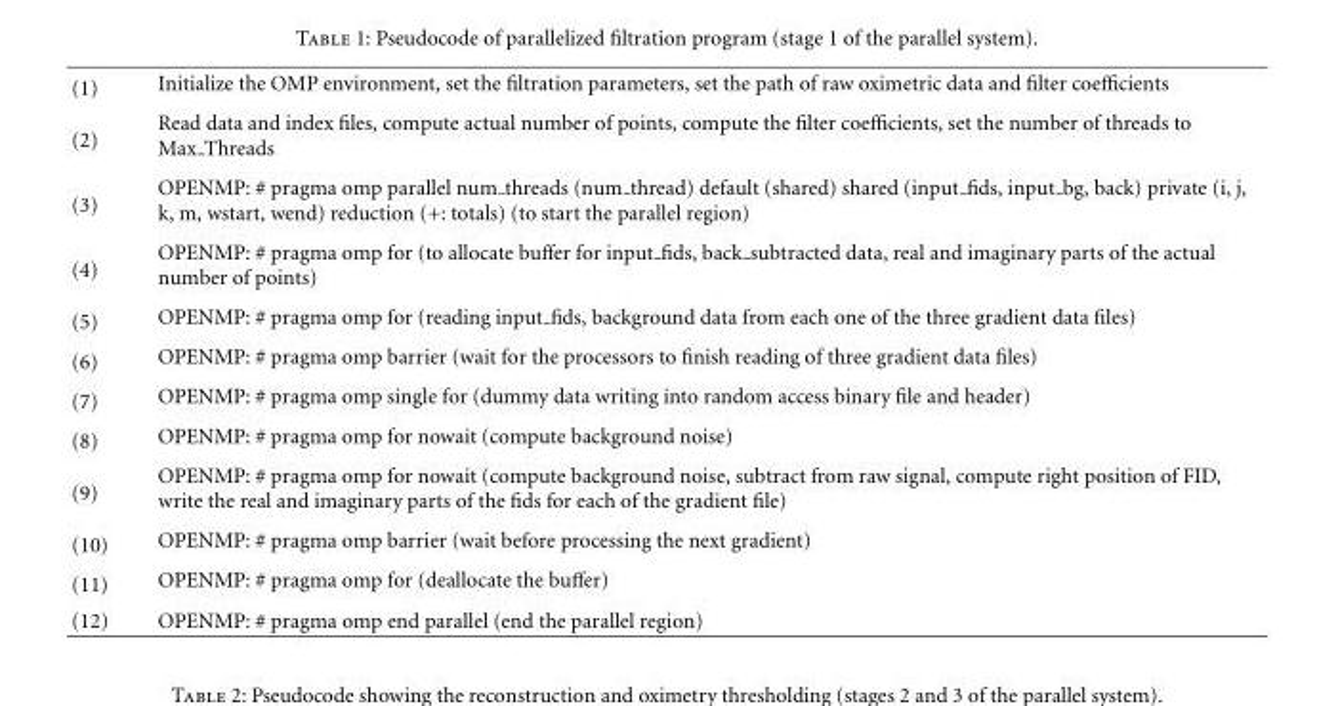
<table><tbody><tr><td>(1)</td><td>Initialize the OMP environment, set the filtration parameters, set the path of raw oximetric data and filter coefficients</td></tr><tr><td>(2)</td><td>Read data and index files, compute actual number of points, compute the filter coefficients, set the number of threads to Max Threads</td></tr><tr><td>(3)</td><td>OPENMP: # pragma omp parallel num <sub>threads (num</sub> thread) default (shared) shared (input <sub>fids, input</sub> bg, back) private (i, j, k, m, wstart, wend) reduction (+: totals) (to start the parallel region)</td></tr><tr><td>(4)</td><td>OPENMP: # pragma omp for (to allocate buffer for input <sub>fids, back</sub> subtracted data, real and imaginary parts of the actual number of points)</td></tr><tr><td>(5)</td><td>OPENMP: # pragma omp for (reading input fids, background data from each one of the three gradient data files)</td></tr><tr><td>(6)</td><td>OPENMP: # pragma omp barrier (wait for the processors to finish reading of three gradient data files)</td></tr><tr><td>(7)</td><td>OPENMP: # pragma omp single for (dummy data writing into random access binary file and header)</td></tr><tr><td>(8)</td><td>OPENMP: # pragma omp for nowait (compute background noise)</td></tr><tr><td>(9)</td><td>OPENMP: # pragma omp for nowait (compute background noise, subtract from raw signal, compute right position of FID, write the real and imaginary parts of the fids for each of the gradient file)</td></tr><tr><td>(10)</td><td>OPENMP: # pragma omp barrier (wait before processing the next gradient)</td></tr><tr><td>(11)</td><td>OPENMP: # pragma omp for (deallocate the buffer)</td></tr><tr><td>(12)</td><td>OPENMP: # pragma omp end parallel (end the parallel region)</td></tr></tbody></table>